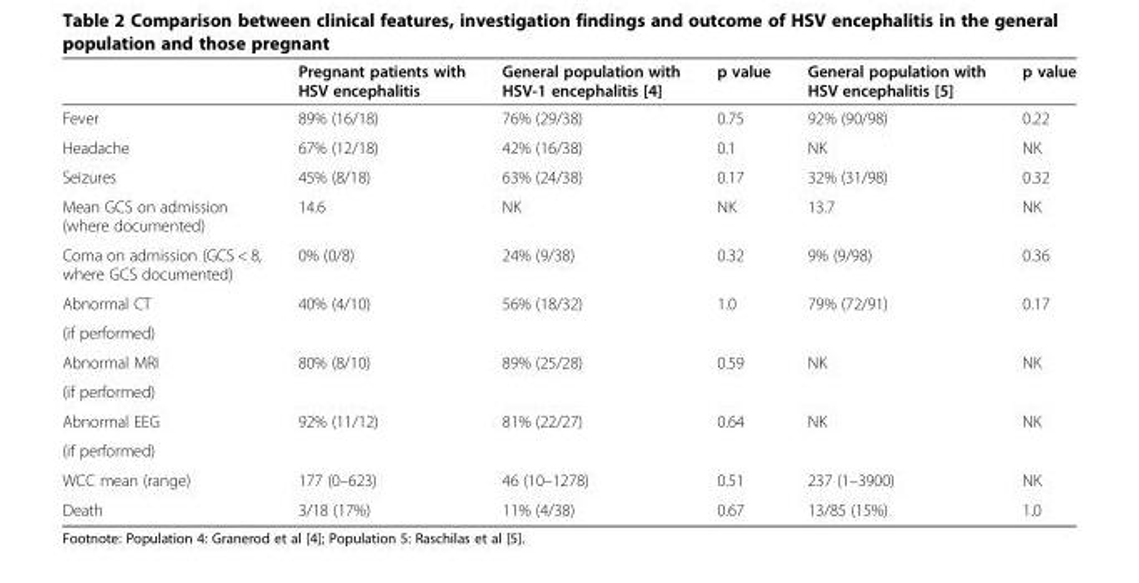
<table><thead><tr><td></td><td>Pregnant patients with HSV encephalitis</td><td>General population with HSV-1 encephalitis [4]</td><td>p value</td><td>General population with HSV encephalitis [5]</td><td>p value</td></tr></thead><tbody><tr><td>Fever</td><td>89% (16/18)</td><td>76% (29/38)</td><td>0.75</td><td>92% (90/98)</td><td>0.22</td></tr><tr><td>Headache</td><td>67% (12/18)</td><td>42% (16/38)</td><td>0.1</td><td>NK</td><td>NK</td></tr><tr><td>Seizures</td><td>45% (8/18)</td><td>63% (24/38)</td><td>0.17</td><td>32% (31/98)</td><td>0.32</td></tr><tr><td>Mean GCS on admission (where documented)</td><td>14.6</td><td>NK</td><td>NK</td><td>13.7</td><td>NK</td></tr><tr><td>Coma on admission (GCS &lt; 8, where GCS documented)</td><td>0% (0/8)</td><td>24% (9/38)</td><td>0.32</td><td>9% (9/98)</td><td>0.36</td></tr><tr><td>Abnormal CT</td><td>40% (4/10)</td><td>56% (18/32)</td><td>1.0</td><td>79% (72/91)</td><td>0.17</td></tr><tr><td colspan="6">(if performed)</td></tr><tr><td>Abnormal MRI</td><td>80% (8/10)</td><td>89% (25/28)</td><td>0.59</td><td>NK</td><td>NK</td></tr><tr><td colspan="6">(if performed)</td></tr><tr><td>Abnormal EEG</td><td>92% (11/12)</td><td>81% (22/27)</td><td>0.64</td><td>NK</td><td>NK</td></tr><tr><td colspan="6">(if performed)</td></tr><tr><td>WCC mean (range)</td><td>177 (0–623)</td><td>46 (10–1278)</td><td>0.51</td><td>237 (1–3900)</td><td>NK</td></tr><tr><td>Death</td><td>3/18 (17%)</td><td>11% (4/38)</td><td>0.67</td><td>13/85 (15%)</td><td>1.0</td></tr></tbody></table>